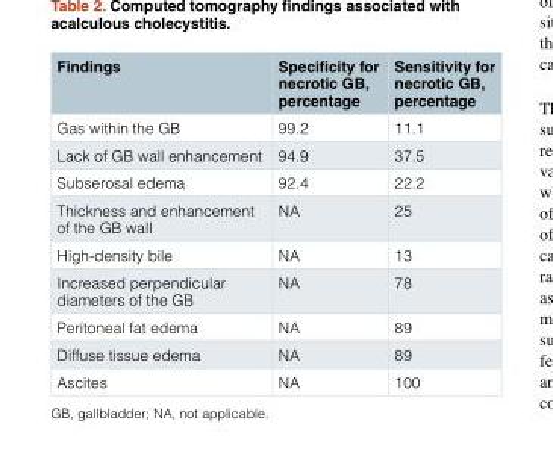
<table><thead><tr><td>Findings</td><td>Specificity for necrotic GB, percentage</td><td>Sensitivity for necrotic GB, percentage</td></tr></thead><tbody><tr><td>Gas within the GB</td><td>99.2</td><td>11.1</td></tr><tr><td>Lack of GB wall enhancement</td><td>94.9</td><td>37.5</td></tr><tr><td>Subserosal edema</td><td>92.4</td><td>22.2</td></tr><tr><td>Thickness and enhancement of the GB wall</td><td>NA</td><td>25</td></tr><tr><td>High-density bile</td><td>NA</td><td>13</td></tr><tr><td>Increased perpendicular diameters of the GB</td><td>NA</td><td>78</td></tr><tr><td>Peritoneal fat edema</td><td>NA</td><td>89</td></tr><tr><td>Diffuse tissue edema</td><td>NA</td><td>89</td></tr><tr><td>Ascites</td><td>NA</td><td>100</td></tr></tbody></table>